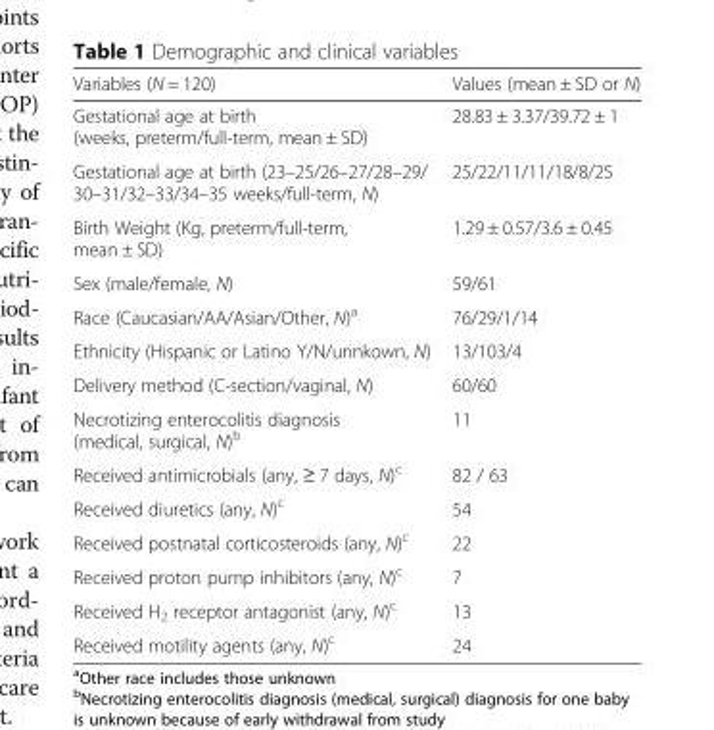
<table><thead><tr><td>Variables (N = 120)</td><td>Values (mean ± SD or N)</td></tr></thead><tbody><tr><td>Gestational age at birth (weeks, preterm/full-term, mean ± SD)</td><td>28.83 ± 3.37/39.72 ± 1</td></tr><tr><td>Gestational age at birth (23–25/26–27/28–29/ 30–31/32–33/34–35 weeks/full-term, N)</td><td>25/22/11/11/18/8/25</td></tr><tr><td>Birth Weight (Kg, preterm/full-term, mean ± SD)</td><td>1.29 ± 0.57/3.6 ± 0.45</td></tr><tr><td>Sex (male/female, N)</td><td>59/61</td></tr><tr><td>Race (Caucasian/AA/Asian/Other, N)<sup>a</sup></td><td>76/29/1/14</td></tr><tr><td>Ethnicity (Hispanic or Latino Y/N/unnkown, N)</td><td>13/103/4</td></tr><tr><td>Delivery method (C-section/vaginal, N)</td><td>60/60</td></tr><tr><td>Necrotizing enterocolitis diagnosis (medical, surgical, N)<sup>b</sup></td><td>11</td></tr><tr><td>Received antimicrobials (any, ≥ 7 days, N)<sup>c</sup></td><td>82 / 63</td></tr><tr><td>Received diuretics (any, N)<sup>c</sup></td><td>54</td></tr><tr><td>Received postnatal corticosteroids (any, N)<sup>c</sup></td><td>22</td></tr><tr><td>Received proton pump inhibitors (any, N)<sup>c</sup></td><td>7</td></tr><tr><td>Received H<sub>2</sub> receptor antagonist (any, N)<sup>c</sup></td><td>13</td></tr><tr><td>Received motility agents (any, N)<sup>c</sup></td><td>24</td></tr></tbody></table>